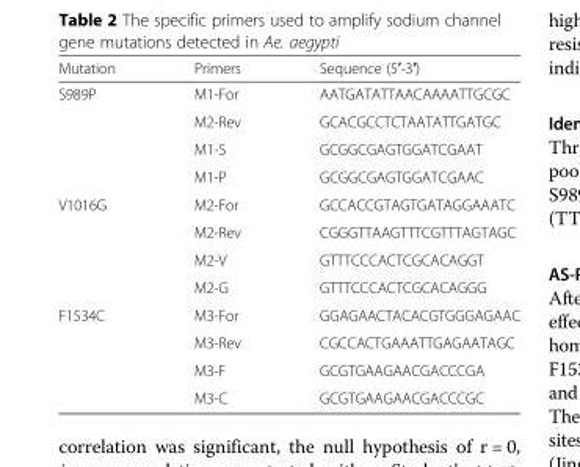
<table><thead><tr><td>Mutation</td><td>Primers</td><td>Sequence (5′-3′)</td></tr></thead><tbody><tr><td rowspan="4">S989P</td><td>M1-For</td><td>AATGATATTAACAAAATTGCGC</td></tr><tr><td>M2-Rev</td><td>GCACGCCTCTAATATTGATGC</td></tr><tr><td>M1-S</td><td>GCGGCGAGTGGATCGAAT</td></tr><tr><td>M1-P</td><td>GCGGCGAGTGGATCGAAC</td></tr><tr><td rowspan="4">V1016G</td><td>M2-For</td><td>GCCACCGTAGTGATAGGAAATC</td></tr><tr><td>M2-Rev</td><td>CGGGTTAAGTTTCGTTTAGTAGC</td></tr><tr><td>M2-V</td><td>GTTTCCCACTCGCACAGGT</td></tr><tr><td>M2-G</td><td>GTTTCCCACTCGCACAGGG</td></tr><tr><td rowspan="4">F1534C</td><td>M3-For</td><td>GGAGAACTACACGTGGGAGAAC</td></tr><tr><td>M3-Rev</td><td>CGCCACTGAAATTGAGAATAGC</td></tr><tr><td>M3-F</td><td>GCGTGAAGAACGACCCGA</td></tr><tr><td>M3-C</td><td>GCGTGAAGAACGACCCGC</td></tr></tbody></table>